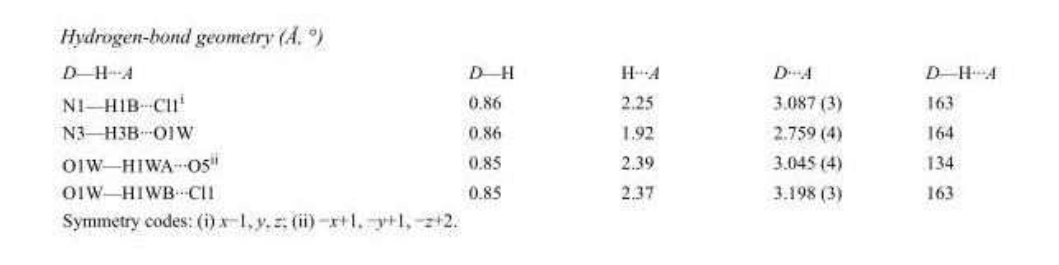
<table><tbody><tr><td>D—H···A</td><td>D—H</td><td>H···A</td><td>D···A</td><td>D—H···A</td></tr><tr><td>N1—H1B···Cl1<sup>i</sup></td><td>0.86</td><td>2.25</td><td>3.087 (3)</td><td>163</td></tr><tr><td>N3—H3B···O1W</td><td>0.86</td><td>1.92</td><td>2.759 (4)</td><td>164</td></tr><tr><td>O1W—H1WA···O5<sup>ii</sup></td><td>0.85</td><td>2.39</td><td>3.045 (4)</td><td>134</td></tr><tr><td>O1W—H1WB···Cl1</td><td>0.85</td><td>2.37</td><td>3.198 (3)</td><td>163</td></tr></tbody></table>